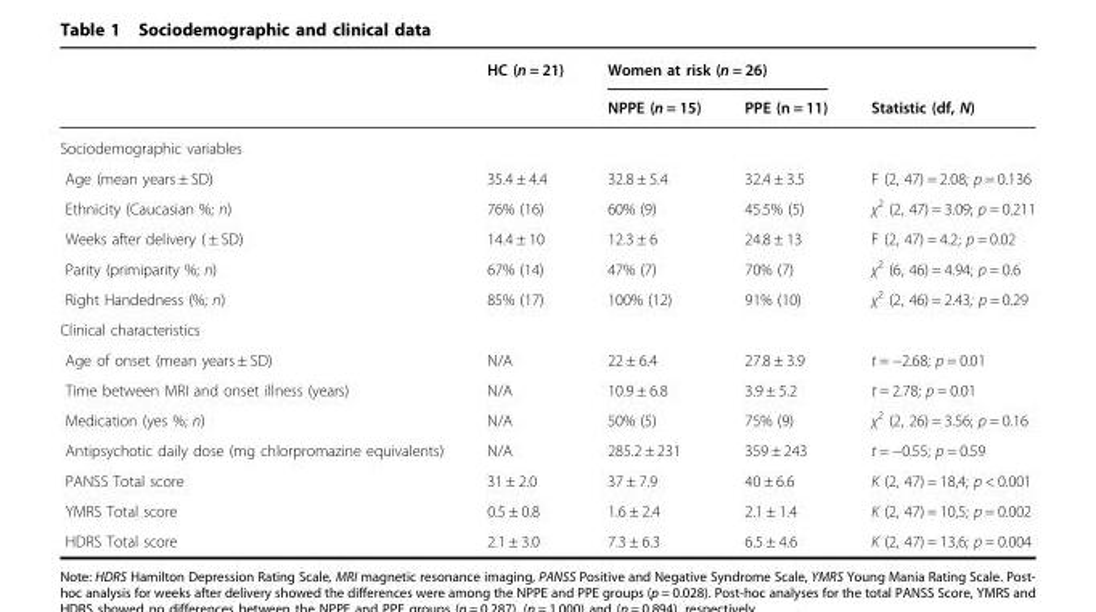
<table><thead><tr><td rowspan="2"></td><td rowspan="2">HC (n = 21)</td><td colspan="2">Women at risk (n = 26)</td><td rowspan="2">Statistic (df, N)</td></tr><tr><td>NPPE (n = 15)</td><td>PPE (n = 11)</td></tr></thead><tbody><tr><td colspan="5">Sociodemographic variables</td></tr><tr><td>Age (mean years ± SD)</td><td>35.4 ± 4.4</td><td>32.8 ± 5.4</td><td>32.4 ± 3.5</td><td>F (2, 47) = 2.08; p = 0.136</td></tr><tr><td>Ethnicity (Caucasian %; n)</td><td>76% (16)</td><td>60% (9)</td><td>45.5% (5)</td><td>χ<sup>2</sup> (2, 47) = 3.09; p = 0.211</td></tr><tr><td>Weeks after delivery ( ± SD)</td><td>14.4 ± 10</td><td>12.3 ± 6</td><td>24.8 ± 13</td><td>F (2, 47) = 4.2; p = 0.02</td></tr><tr><td>Parity (primiparity %; n)</td><td>67% (14)</td><td>47% (7)</td><td>70% (7)</td><td>χ<sup>2</sup> (6, 46) = 4.94; p = 0.6</td></tr><tr><td>Right Handedness (%; n)</td><td>85% (17)</td><td>100% (12)</td><td>91% (10)</td><td>χ<sup>2</sup> (2, 46) = 2.43; p = 0.29</td></tr><tr><td colspan="5">Clinical characteristics</td></tr><tr><td>Age of onset (mean years ± SD)</td><td>N/A</td><td>22 ± 6.4</td><td>27.8 ± 3.9</td><td>t = −2.68; p = 0.01</td></tr><tr><td>Time between MRI and onset illness (years)</td><td>N/A</td><td>10.9 ± 6.8</td><td>3.9 ± 5.2</td><td>t = 2.78; p = 0.01</td></tr><tr><td>Medication (yes %; n)</td><td>N/A</td><td>50% (5)</td><td>75% (9)</td><td>χ<sup>2</sup> (2, 26) = 3.56; p = 0.16</td></tr><tr><td>Antipsychotic daily dose (mg chlorpromazine equivalents)</td><td>N/A</td><td>285.2 ± 231</td><td>359 ± 243</td><td>t = −0.55; p = 0.59</td></tr><tr><td>PANSS Total score</td><td>31 ± 2.0</td><td>37 ± 7.9</td><td>40 ± 6.6</td><td>K (2, 47) = 18,4; p &lt; 0.001</td></tr><tr><td>YMRS Total score</td><td>0.5 ± 0.8</td><td>1.6 ± 2.4</td><td>2.1 ± 1.4</td><td>K (2, 47) = 10,5; p = 0.002</td></tr><tr><td>HDRS Total score</td><td>2.1 ± 3.0</td><td>7.3 ± 6.3</td><td>6.5 ± 4.6</td><td>K (2, 47) = 13,6; p = 0.004</td></tr></tbody></table>